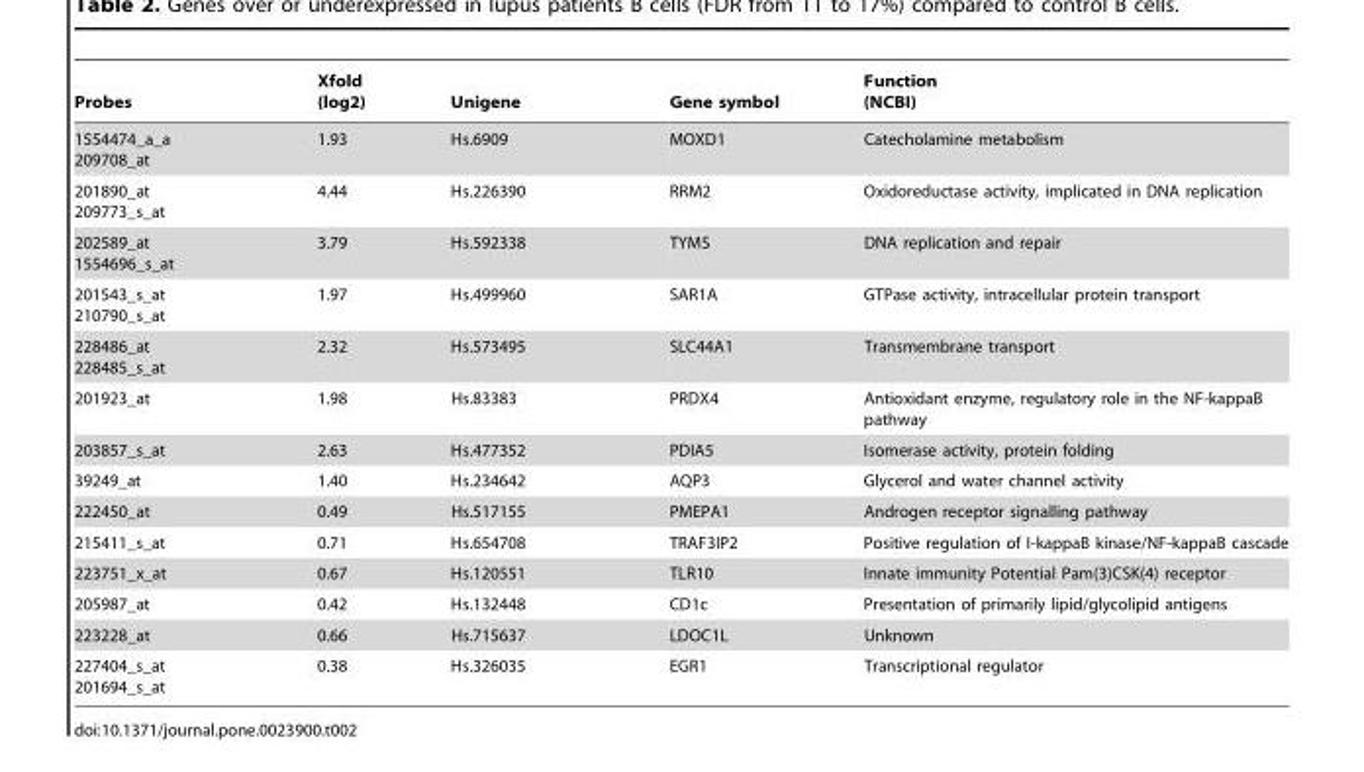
<table><thead><tr><td>Probes</td><td>Xfold (log2)</td><td>Unigene</td><td>Gene symbol</td><td>Function (NCBI)</td></tr></thead><tbody><tr><td>1554474_a_a 209708_at</td><td>1.93</td><td>Hs.6909</td><td>MOXD1</td><td>Catecholamine metabolism</td></tr><tr><td>201890_at 209773_s_at</td><td>4.44</td><td>Hs.226390</td><td>RRM2</td><td>Oxidoreductase activity, implicated in DNA replication</td></tr><tr><td>202589_at 1554696_s_at</td><td>3.79</td><td>Hs.592338</td><td>TYMS</td><td>DNA replication and repair</td></tr><tr><td>201543_s_at 210790_s_at</td><td>1.97</td><td>Hs.499960</td><td>SAR1A</td><td>GTPase activity, intracellular protein transport</td></tr><tr><td>228486_at 228485_s_at</td><td>2.32</td><td>Hs.573495</td><td>SLC44A1</td><td>Transmembrane transport</td></tr><tr><td>201923_at</td><td>1.98</td><td>Hs.83383</td><td>PRDX4</td><td>Antioxidant enzyme, regulatory role in the NF-kappaB pathway</td></tr><tr><td>203857_s_at</td><td>2.63</td><td>Hs.477352</td><td>PDIA5</td><td>Isomerase activity, protein folding</td></tr><tr><td>39249_at</td><td>1.40</td><td>Hs.234642</td><td>AQP3</td><td>Glycerol and water channel activity</td></tr><tr><td>222450_at</td><td>0.49</td><td>Hs.517155</td><td>PMEPA1</td><td>Androgen receptor signalling pathway</td></tr><tr><td>215411_s_at</td><td>0.71</td><td>Hs.654708</td><td>TRAF3IP2</td><td>Positive regulation of I-kappaB kinase/NF-kappaB cascade</td></tr><tr><td>223751_x_at</td><td>0.67</td><td>Hs.120551</td><td>TLR10</td><td>Innate immunity Potential Pam(3)CSK(4) receptor</td></tr><tr><td>205987_at</td><td>0.42</td><td>Hs.132448</td><td>CD1c</td><td>Presentation of primarily lipid/glycolipid antigens</td></tr><tr><td>223228_at</td><td>0.66</td><td>Hs.715637</td><td>LDOC1L</td><td>Unknown</td></tr><tr><td>227404_s_at 201694_s_at</td><td>0.38</td><td>Hs.326035</td><td>EGR1</td><td>Transcriptional regulator</td></tr></tbody></table>